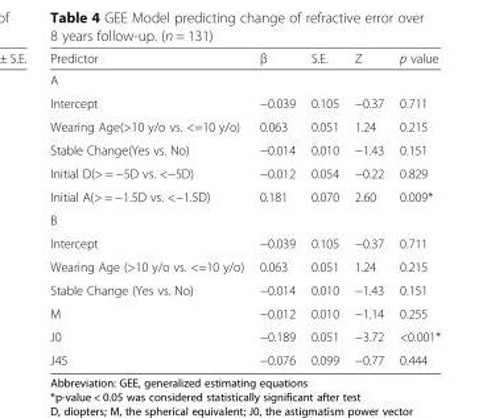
<table><thead><tr><td>Predictor</td><td>β</td><td>S.E.</td><td>Z</td><td>p value</td></tr></thead><tbody><tr><td colspan="5">A</td></tr><tr><td>Intercept</td><td>−0.039</td><td>0.105</td><td>−0.37</td><td>0.711</td></tr><tr><td>Wearing Age(&gt;10 y/o vs. &lt;=10 y/o)</td><td>0.063</td><td>0.051</td><td>1.24</td><td>0.215</td></tr><tr><td>Stable Change(Yes vs. No)</td><td>−0.014</td><td>0.010</td><td>−1.43</td><td>0.151</td></tr><tr><td>Initial D(&gt; = −5D vs. &lt;−5D)</td><td>−0.012</td><td>0.054</td><td>−0.22</td><td>0.829</td></tr><tr><td>Initial A(&gt; = −1.5D vs. &lt;−1.5D)</td><td>0.181</td><td>0.070</td><td>2.60</td><td>0.009*</td></tr><tr><td colspan="5">B</td></tr><tr><td>Intercept</td><td>−0.039</td><td>0.105</td><td>−0.37</td><td>0.711</td></tr><tr><td>Wearing Age (&gt;10 y/o vs. &lt;=10 y/o)</td><td>0.063</td><td>0.051</td><td>1.24</td><td>0.215</td></tr><tr><td>Stable Change (Yes vs. No)</td><td>−0.014</td><td>0.010</td><td>−1.43</td><td>0.151</td></tr><tr><td>M</td><td>−0.012</td><td>0.010</td><td>−1.14</td><td>0.255</td></tr><tr><td>J0</td><td>−0.189</td><td>0.051</td><td>−3.72</td><td>&lt;0.001*</td></tr><tr><td>J45</td><td>−0.076</td><td>0.099</td><td>−0.77</td><td>0.444</td></tr></tbody></table>